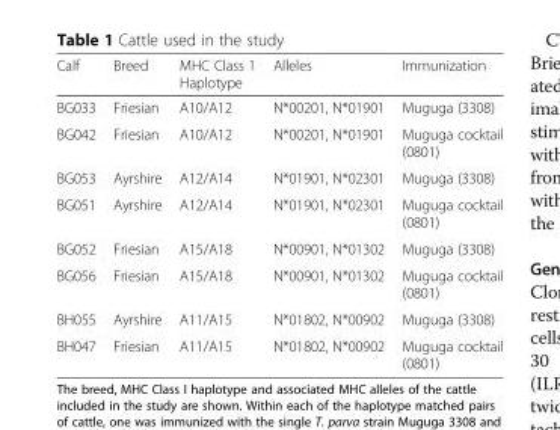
<table><thead><tr><td>Calf</td><td>Breed</td><td>MHC Class 1 Haplotype</td><td>Alleles</td><td>Immunization</td></tr></thead><tbody><tr><td>BG033</td><td>Friesian</td><td>A10/A12</td><td>N*00201, N*01901</td><td>Muguga (3308)</td></tr><tr><td>BG042</td><td>Friesian</td><td>A10/A12</td><td>N*00201, N*01901</td><td>Muguga cocktail (0801)</td></tr><tr><td>BG053</td><td>Ayrshire</td><td>A12/A14</td><td>N*01901, N*02301</td><td>Muguga (3308)</td></tr><tr><td>BG051</td><td>Ayrshire</td><td>A12/A14</td><td>N*01901, N*02301</td><td>Muguga cocktail (0801)</td></tr><tr><td>BG052</td><td>Friesian</td><td>A15/A18</td><td>N*00901, N*01302</td><td>Muguga (3308)</td></tr><tr><td>BG056</td><td>Friesian</td><td>A15/A18</td><td>N*00901, N*01302</td><td>Muguga cocktail (0801)</td></tr><tr><td>BH055</td><td>Ayrshire</td><td>A11/A15</td><td>N*01802, N*00902</td><td>Muguga (3308)</td></tr><tr><td>BH047</td><td>Friesian</td><td>A11/A15</td><td>N*01802, N*00902</td><td>Muguga cocktail (0801)</td></tr></tbody></table>